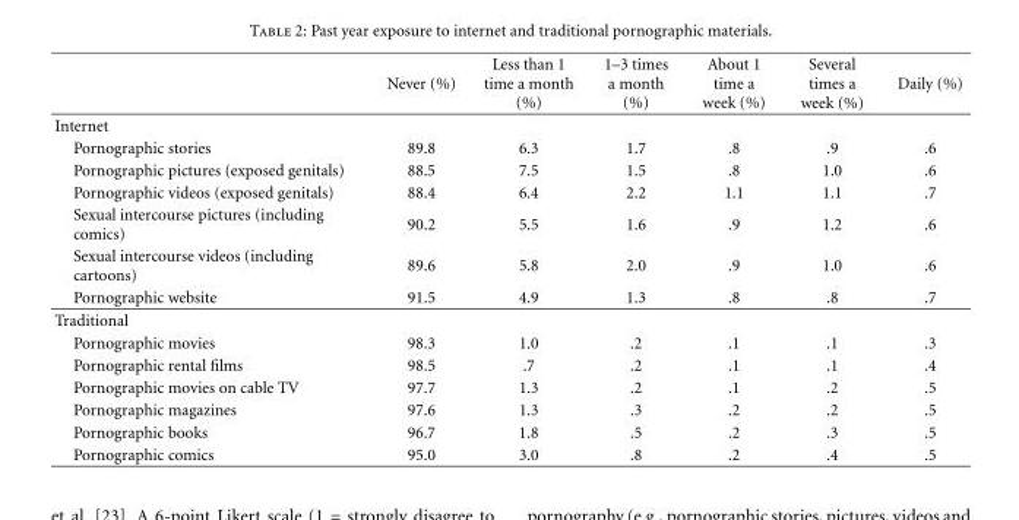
<table><thead><tr><td></td><td>Never (%)</td><td>Less than 1 time a month (%)</td><td>1–3 times a month (%)</td><td>About 1 time a week (%)</td><td>Several times a week (%)</td><td>Daily (%)</td></tr></thead><tbody><tr><td colspan="7">Internet</td></tr><tr><td>Pornographic stories</td><td>89.8</td><td>6.3</td><td>1.7</td><td>.8</td><td>.9</td><td>.6</td></tr><tr><td>Pornographic pictures (exposed genitals)</td><td>88.5</td><td>7.5</td><td>1.5</td><td>.8</td><td>1.0</td><td>.6</td></tr><tr><td>Pornographic videos (exposed genitals)</td><td>88.4</td><td>6.4</td><td>2.2</td><td>1.1</td><td>1.1</td><td>.7</td></tr><tr><td>Sexual intercourse pictures (including comics)</td><td>90.2</td><td>5.5</td><td>1.6</td><td>.9</td><td>1.2</td><td>.6</td></tr><tr><td>Sexual intercourse videos (including cartoons)</td><td>89.6</td><td>5.8</td><td>2.0</td><td>.9</td><td>1.0</td><td>.6</td></tr><tr><td>Pornographic website</td><td>91.5</td><td>4.9</td><td>1.3</td><td>.8</td><td>.8</td><td>.7</td></tr><tr><td colspan="7">Traditional</td></tr><tr><td>Pornographic movies</td><td>98.3</td><td>1.0</td><td>.2</td><td>.1</td><td>.1</td><td>.3</td></tr><tr><td>Pornographic rental films</td><td>98.5</td><td>.7</td><td>.2</td><td>.1</td><td>.1</td><td>.4</td></tr><tr><td>Pornographic movies on cable TV</td><td>97.7</td><td>1.3</td><td>.2</td><td>.1</td><td>.2</td><td>.5</td></tr><tr><td>Pornographic magazines</td><td>97.6</td><td>1.3</td><td>.3</td><td>.2</td><td>.2</td><td>.5</td></tr><tr><td>Pornographic books</td><td>96.7</td><td>1.8</td><td>.5</td><td>.2</td><td>.3</td><td>.5</td></tr><tr><td>Pornographic comics</td><td>95.0</td><td>3.0</td><td>.8</td><td>.2</td><td>.4</td><td>.5</td></tr></tbody></table>